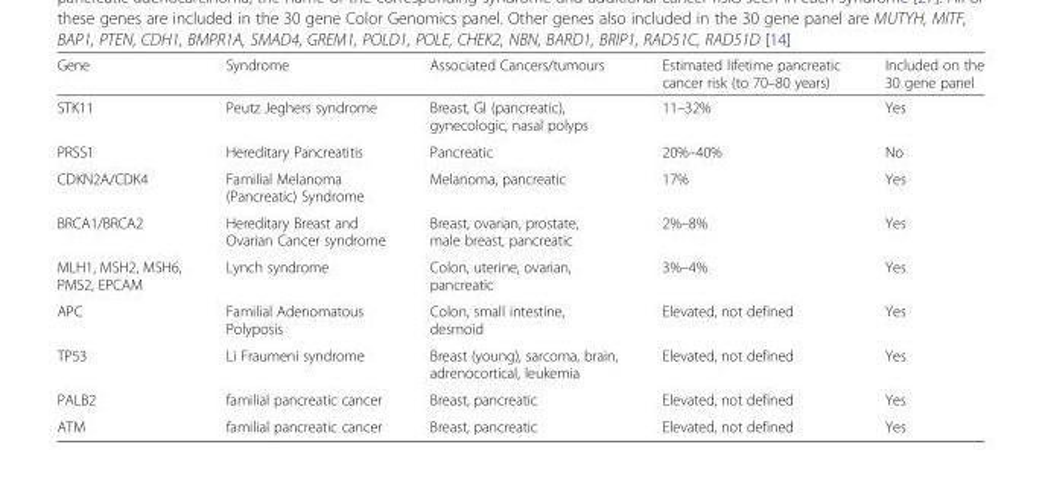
<table><thead><tr><td>Gene</td><td>Syndrome</td><td>Associated Cancers/tumours</td><td>Estimated lifetime pancreatic cancer risk (to 70–80 years)</td><td>Included on the 30 gene panel</td></tr></thead><tbody><tr><td>STK11</td><td>Peutz Jeghers syndrome</td><td>Breast, GI (pancreatic), gynecologic, nasal polyps</td><td>11–32%</td><td>Yes</td></tr><tr><td>PRSS1</td><td>Hereditary Pancreatitis</td><td>Pancreatic</td><td>20%–40%</td><td>No</td></tr><tr><td>CDKN2A/CDK4</td><td>Familial Melanoma (Pancreatic) Syndrome</td><td>Melanoma, pancreatic</td><td>17%</td><td>Yes</td></tr><tr><td>BRCA1/BRCA2</td><td>Hereditary Breast and Ovarian Cancer syndrome</td><td>Breast, ovarian, prostate, male breast, pancreatic</td><td>2%–8%</td><td>Yes</td></tr><tr><td>MLH1, MSH2, MSH6, PMS2, EPCAM</td><td>Lynch syndrome</td><td>Colon, uterine, ovarian, pancreatic</td><td>3%–4%</td><td>Yes</td></tr><tr><td>APC</td><td>Familial Adenomatous Polyposis</td><td>Colon, small intestine, desmoid</td><td>Elevated, not defined</td><td>Yes</td></tr><tr><td>TP53</td><td>Li Fraumeni syndrome</td><td>Breast (young), sarcoma, brain, adrenocortical, leukemia</td><td>Elevated, not defined</td><td>Yes</td></tr><tr><td>PALB2</td><td>familial pancreatic cancer</td><td>Breast, pancreatic</td><td>Elevated, not defined</td><td>Yes</td></tr><tr><td>ATM</td><td>familial pancreatic cancer</td><td>Breast, pancreatic</td><td>Elevated, not defined</td><td>Yes</td></tr></tbody></table>